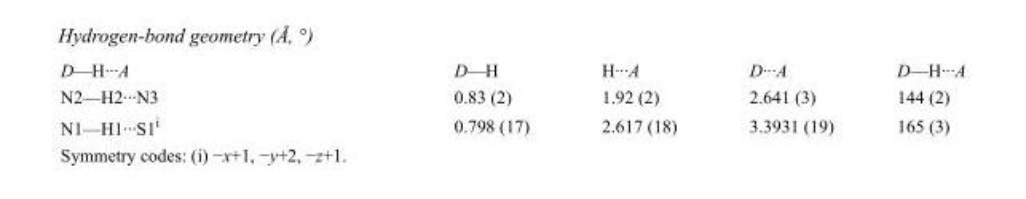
<table><tbody><tr><td>D—H···A</td><td>D—H</td><td>H···A</td><td>D···A</td><td>D—H···A</td></tr><tr><td>N2—H2···N3</td><td>0.83 (2)</td><td>1.92 (2)</td><td>2.641 (3)</td><td>144 (2)</td></tr><tr><td>N1—H1···S1<sup>i</sup></td><td>0.798 (17)</td><td>2.617 (18)</td><td>3.3931 (19)</td><td>165 (3)</td></tr></tbody></table>